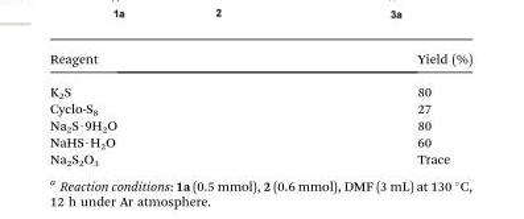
<table><thead><tr><td>Reagent</td><td>Yield (%)</td></tr></thead><tbody><tr><td>K<sub>2</sub>S</td><td>80</td></tr><tr><td>Cyclo-S<sub>8</sub></td><td>27</td></tr><tr><td>Na<sub>2</sub>S·9H<sub>2</sub>O</td><td>80</td></tr><tr><td>NaHS·H<sub>2</sub>O</td><td>60</td></tr><tr><td>Na<sub>2</sub>S<sub>2</sub>O<sub>3</sub></td><td>Trace</td></tr></tbody></table>